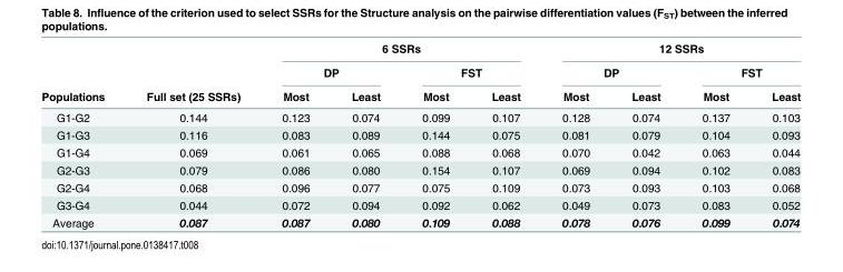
<table><thead><tr><td rowspan="3">Populations</td><td rowspan="3">Full set (25 SSRs)</td><td colspan="4">6 SSRs</td><td colspan="4">12 SSRs</td></tr><tr><td colspan="2">DP</td><td colspan="2">FST</td><td colspan="2">DP</td><td colspan="2">FST</td></tr><tr><td>Most</td><td>Least</td><td>Most</td><td>Least</td><td>Most</td><td>Least</td><td>Most</td><td>Least</td></tr></thead><tbody><tr><td>G1-G2</td><td>0.144</td><td>0.123</td><td>0.074</td><td>0.099</td><td>0.107</td><td>0.128</td><td>0.074</td><td>0.137</td><td>0.103</td></tr><tr><td>G1-G3</td><td>0.116</td><td>0.083</td><td>0.089</td><td>0.144</td><td>0.075</td><td>0.081</td><td>0.079</td><td>0.104</td><td>0.093</td></tr><tr><td>G1-G4</td><td>0.069</td><td>0.061</td><td>0.065</td><td>0.088</td><td>0.068</td><td>0.070</td><td>0.042</td><td>0.063</td><td>0.044</td></tr><tr><td>G2-G3</td><td>0.079</td><td>0.086</td><td>0.080</td><td>0.154</td><td>0.107</td><td>0.069</td><td>0.094</td><td>0.102</td><td>0.083</td></tr><tr><td>G2-G4</td><td>0.068</td><td>0.096</td><td>0.077</td><td>0.075</td><td>0.109</td><td>0.073</td><td>0.093</td><td>0.103</td><td>0.068</td></tr><tr><td>G3-G4</td><td>0.044</td><td>0.072</td><td>0.094</td><td>0.092</td><td>0.062</td><td>0.049</td><td>0.073</td><td>0.083</td><td>0.052</td></tr><tr><td>Average</td><td>0.087</td><td>0.087</td><td>0.080</td><td>0.109</td><td>0.088</td><td>0.078</td><td>0.076</td><td>0.099</td><td>0.074</td></tr></tbody></table>